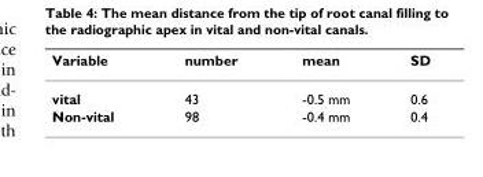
<table><thead><tr><td>Variable</td><td>number</td><td>mean</td><td>SD</td></tr></thead><tbody><tr><td>vital</td><td>43</td><td>-0.5 mm</td><td>0.6</td></tr><tr><td>Non-vital</td><td>98</td><td>-0.4 mm</td><td>0.4</td></tr></tbody></table>